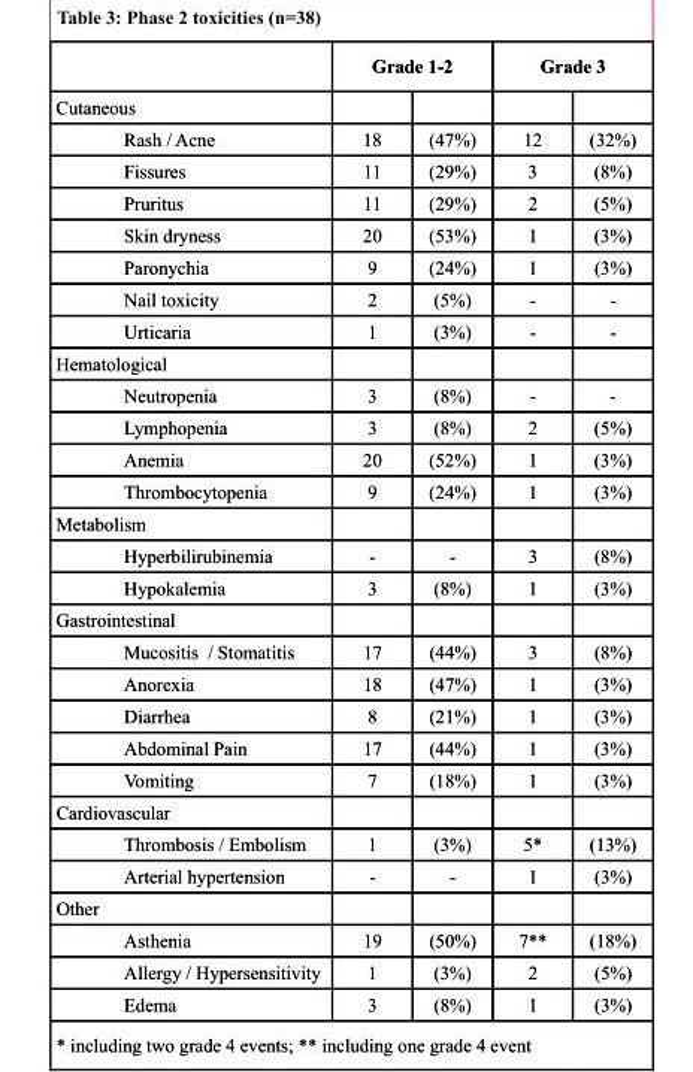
<table><thead><tr><td rowspan="2">Cutaneous</td><td colspan="2">Grade 1-2</td><td colspan="2">Grade 3</td></tr><tr><td></td><td></td><td></td><td></td></tr></thead><tbody><tr><td>Rash / Acne</td><td>18</td><td>(47%)</td><td>12</td><td>(32%)</td></tr><tr><td>Fissures</td><td>11</td><td>(29%)</td><td>3</td><td>(8%)</td></tr><tr><td>Pruritus</td><td>11</td><td>(29%)</td><td>2</td><td>(5%)</td></tr><tr><td>Skin dryness</td><td>20</td><td>(53%)</td><td>1</td><td>(3%)</td></tr><tr><td>Paronychia</td><td>9</td><td>(24%)</td><td>1</td><td>(3%)</td></tr><tr><td>Nail toxicity</td><td>2</td><td>(5%)</td><td>-</td><td>-</td></tr><tr><td>Urticaria</td><td>1</td><td>(3%)</td><td>-</td><td>-</td></tr><tr><td colspan="5">Hematological</td></tr><tr><td>Neutropenia</td><td>3</td><td>(8%)</td><td>-</td><td>-</td></tr><tr><td>Lymphopenia</td><td>3</td><td>(8%)</td><td>2</td><td>(5%)</td></tr><tr><td>Anemia</td><td>20</td><td>(52%)</td><td>1</td><td>(3%)</td></tr><tr><td>Thrombocytopenia</td><td>9</td><td>(24%)</td><td>1</td><td>(3%)</td></tr><tr><td colspan="5">Metabolism</td></tr><tr><td>Hyperbilirubinemia</td><td>-</td><td>-</td><td>3</td><td>(8%)</td></tr><tr><td>Hypokalemia</td><td>3</td><td>(8%)</td><td>1</td><td>(3%)</td></tr><tr><td colspan="5">Gastrointestinal</td></tr><tr><td>Mucositis / Stomatitis</td><td>17</td><td>(44%)</td><td>3</td><td>(8%)</td></tr><tr><td>Anorexia</td><td>18</td><td>(47%)</td><td>1</td><td>(3%)</td></tr><tr><td>Diarrhea</td><td>8</td><td>(21%)</td><td>1</td><td>(3%)</td></tr><tr><td>Abdominal Pain</td><td>17</td><td>(44%)</td><td>1</td><td>(3%)</td></tr><tr><td>Vomiting</td><td>7</td><td>(18%)</td><td>1</td><td>(3%)</td></tr><tr><td colspan="5">Cardiovascular</td></tr><tr><td>Thrombosis / Embolism</td><td>1</td><td>(3%)</td><td>5*</td><td>(13%)</td></tr><tr><td>Arterial hypertension</td><td>-</td><td>-</td><td>1</td><td>(3%)</td></tr><tr><td colspan="5">Other</td></tr><tr><td>Asthenia</td><td>19</td><td>(50%)</td><td>7**</td><td>(18%)</td></tr><tr><td>Allergy / Hypersensitivity</td><td>1</td><td>(3%)</td><td>2</td><td>(5%)</td></tr><tr><td>Edema</td><td>3</td><td>(8%)</td><td>1</td><td>(3%)</td></tr></tbody></table>